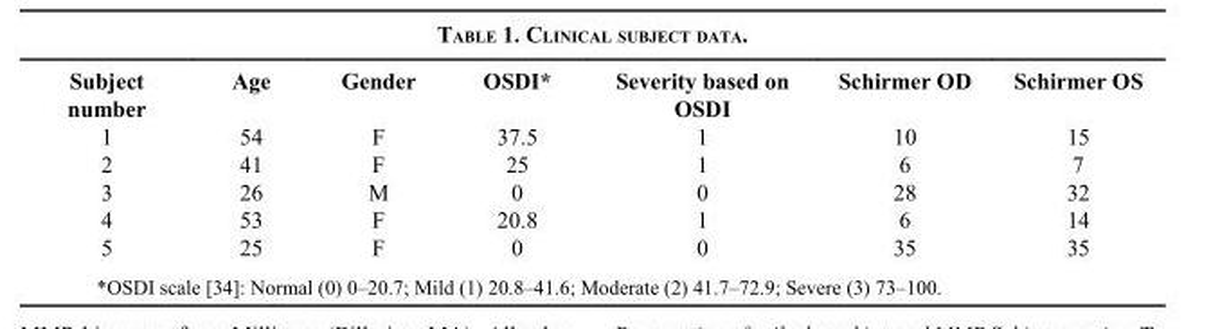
<table><thead><tr><td>Subject number</td><td>Age</td><td>Gender</td><td>OSDI*</td><td>Severity based on OSDI</td><td>Schirmer OD</td><td>Schirmer OS</td></tr></thead><tbody><tr><td>1</td><td>54</td><td>F</td><td>37.5</td><td>1</td><td>10</td><td>15</td></tr><tr><td>2</td><td>41</td><td>F</td><td>25</td><td>1</td><td>6</td><td>7</td></tr><tr><td>3</td><td>26</td><td>M</td><td>0</td><td>0</td><td>28</td><td>32</td></tr><tr><td>4</td><td>53</td><td>F</td><td>20.8</td><td>1</td><td>6</td><td>14</td></tr><tr><td>5</td><td>25</td><td>F</td><td>0</td><td>0</td><td>35</td><td>35</td></tr></tbody></table>